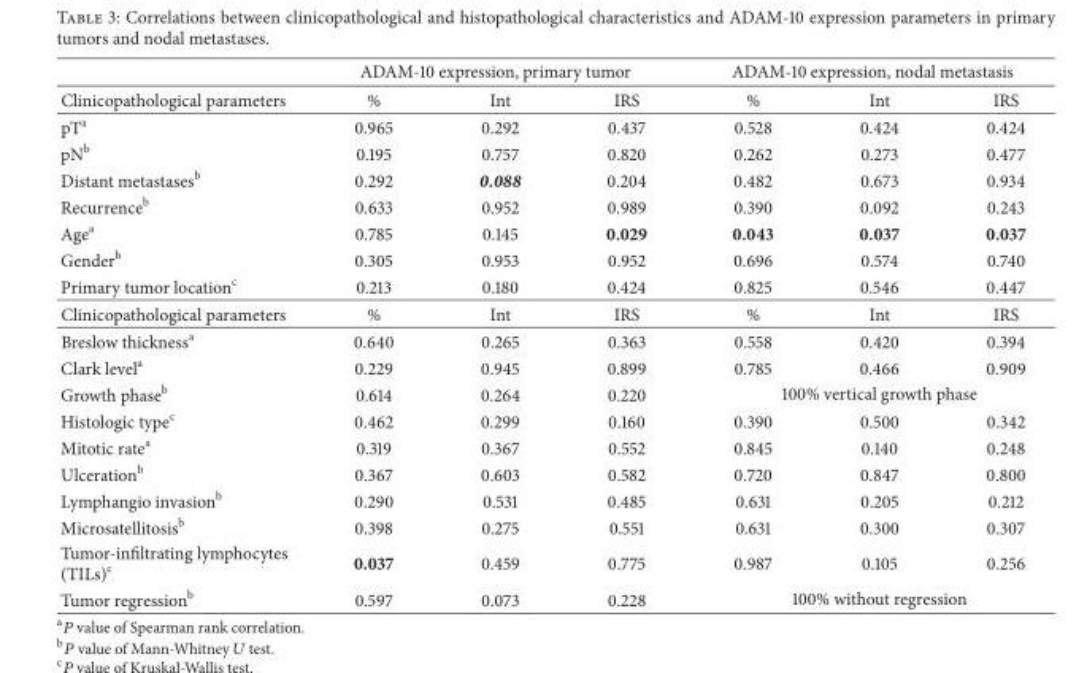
<table><thead><tr><td rowspan="2">Clinicopathological parameters</td><td colspan="3">ADAM-10 expression, primary tumor</td><td colspan="3">ADAM-10 expression, nodal metastasis</td></tr><tr><td>%</td><td>Int</td><td>IRS</td><td>%</td><td>Int</td><td>IRS</td></tr></thead><tbody><tr><td>pT<sup>a</sup></td><td>0.965</td><td>0.292</td><td>0.437</td><td>0.528</td><td>0.424</td><td>0.424</td></tr><tr><td>pN<sup>b</sup></td><td>0.195</td><td>0.757</td><td>0.820</td><td>0.262</td><td>0.273</td><td>0.477</td></tr><tr><td>Distant metastases<sup>b</sup></td><td>0.292</td><td>0.088</td><td>0.204</td><td>0.482</td><td>0.673</td><td>0.934</td></tr><tr><td>Recurrence<sup>b</sup></td><td>0.633</td><td>0.952</td><td>0.989</td><td>0.390</td><td>0.092</td><td>0.243</td></tr><tr><td>Age<sup>a</sup></td><td>0.785</td><td>0.145</td><td>0.029</td><td>0.043</td><td>0.037</td><td>0.037</td></tr><tr><td>Gender<sup>b</sup></td><td>0.305</td><td>0.953</td><td>0.952</td><td>0.696</td><td>0.574</td><td>0.740</td></tr><tr><td>Primary tumor location<sup>c</sup></td><td>0.213</td><td>0.180</td><td>0.424</td><td>0.825</td><td>0.546</td><td>0.447</td></tr><tr><td>Clinicopathological parameters</td><td>%</td><td>Int</td><td>IRS</td><td>%</td><td>Int</td><td>IRS</td></tr><tr><td>Breslow thickness<sup>a</sup></td><td>0.640</td><td>0.265</td><td>0.363</td><td>0.558</td><td>0.420</td><td>0.394</td></tr><tr><td>Clark level<sup>a</sup></td><td>0.229</td><td>0.945</td><td>0.899</td><td>0.785</td><td>0.466</td><td>0.909</td></tr><tr><td>Growth phase<sup>b</sup></td><td>0.614</td><td>0.264</td><td>0.220</td><td colspan="3">100% vertical growth phase</td></tr><tr><td>Histologic type<sup>c</sup></td><td>0.462</td><td>0.299</td><td>0.160</td><td>0.390</td><td>0.500</td><td>0.342</td></tr><tr><td>Mitotic rate<sup>a</sup></td><td>0.319</td><td>0.367</td><td>0.552</td><td>0.845</td><td>0.140</td><td>0.248</td></tr><tr><td>Ulceration<sup>b</sup></td><td>0.367</td><td>0.603</td><td>0.582</td><td>0.720</td><td>0.847</td><td>0.800</td></tr><tr><td>Lymphangio invasion<sup>b</sup></td><td>0.290</td><td>0.531</td><td>0.485</td><td>0.631</td><td>0.205</td><td>0.212</td></tr><tr><td>Microsatellitosis<sup>b</sup></td><td>0.398</td><td>0.275</td><td>0.551</td><td>0.631</td><td>0.300</td><td>0.307</td></tr><tr><td>Tumor-infiltrating lymphocytes (TILs)<sup>c</sup></td><td>0.037</td><td>0.459</td><td>0.775</td><td>0.987</td><td>0.105</td><td>0.256</td></tr><tr><td>Tumor regression<sup>b</sup></td><td>0.597</td><td>0.073</td><td>0.228</td><td colspan="3">100% without regression</td></tr></tbody></table>